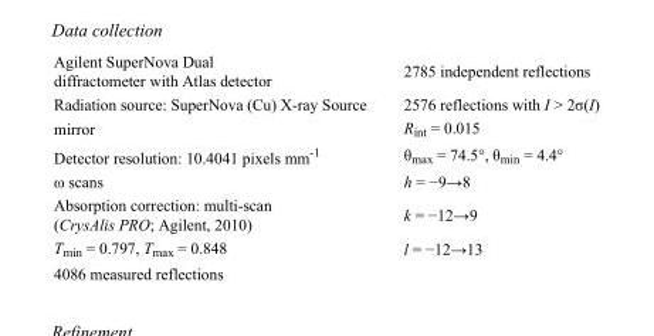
<table><tbody><tr><td>Agilent SuperNova Dual diffractometer with Atlas detector</td><td>2785 independent reflections</td></tr><tr><td>Radiation source: SuperNova (Cu) X-ray Source</td><td>2576 reflections with I &gt; 2σ(I)</td></tr><tr><td>mirror</td><td>R<sub>int</sub> = 0.015</td></tr><tr><td>Detector resolution: 10.4041 pixels mm<sup>-1</sup></td><td>θ<sub>max</sub> = 74.5°, θ<sub>min</sub> = 4.4°</td></tr><tr><td>ω scans</td><td>h = −9→8</td></tr><tr><td>Absorption correction: multi-scan (CrysAlis PRO; Agilent, 2010)</td><td>k = −12→9</td></tr><tr><td>T<sub>min</sub> = 0.797, T<sub>max</sub> = 0.848</td><td>l = −12→13</td></tr><tr><td>4086 measured reflections</td><td></td></tr></tbody></table>